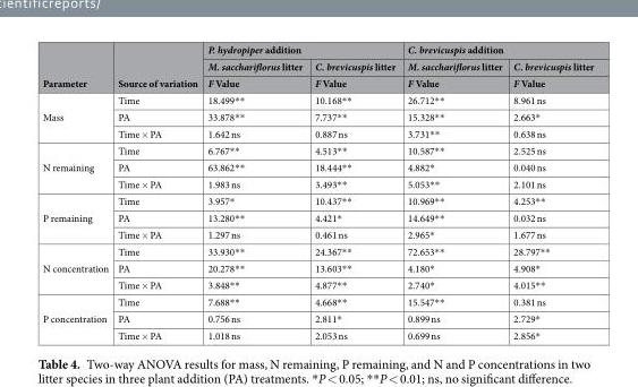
<table><thead><tr><td rowspan="3">Parameter</td><td rowspan="3">Source of variation</td><td colspan="2">P. hydropiper addition</td><td colspan="2">C. brevicuspis addition</td></tr><tr><td rowspan="2">M. sacchariflorus litter F Value</td><td rowspan="2">C. brevicuspis litter F Value</td><td rowspan="2">M. sacchariflorus litter F Value</td><td rowspan="2">C. brevicuspis litter F Value</td></tr><tr></tr></thead><tbody><tr><td rowspan="3">Mass</td><td>Time</td><td>18.499**</td><td>10.168**</td><td>26.712**</td><td>8.961 ns</td></tr><tr><td>PA</td><td>33.878**</td><td>7.737**</td><td>15.328**</td><td>2.663*</td></tr><tr><td>Time × PA</td><td>1.642 ns</td><td>0.887 ns</td><td>3.731**</td><td>0.638 ns</td></tr><tr><td rowspan="3">N remaining</td><td>Time</td><td>6.767**</td><td>4.513**</td><td>10.587**</td><td>2.525 ns</td></tr><tr><td>PA</td><td>63.862**</td><td>18.444**</td><td>4.882*</td><td>0.040 ns</td></tr><tr><td>Time × PA</td><td>1.983 ns</td><td>3.493**</td><td>5.053**</td><td>2.101 ns</td></tr><tr><td rowspan="3">P remaining</td><td>Time</td><td>3.957*</td><td>10.437**</td><td>10.969**</td><td>4.253**</td></tr><tr><td>PA</td><td>13.280**</td><td>4.421*</td><td>14.649**</td><td>0.032 ns</td></tr><tr><td>Time × PA</td><td>1.297 ns</td><td>0.461 ns</td><td>2.965*</td><td>1.677 ns</td></tr><tr><td rowspan="3">N concentration</td><td>Time</td><td>33.930**</td><td>24.367**</td><td>72.653**</td><td>28.797**</td></tr><tr><td>PA</td><td>20.278**</td><td>13.603**</td><td>4.180*</td><td>4.908*</td></tr><tr><td>Time × PA</td><td>3.848**</td><td>4.877**</td><td>2.740*</td><td>4.015**</td></tr><tr><td rowspan="3">P concentration</td><td>Time</td><td>7.688**</td><td>4.668**</td><td>15.547**</td><td>0.381 ns</td></tr><tr><td>PA</td><td>0.756 ns</td><td>2.811*</td><td>0.899 ns</td><td>2.729*</td></tr><tr><td>Time × PA</td><td>1.018 ns</td><td>2.053 ns</td><td>0.699 ns</td><td>2.856*</td></tr></tbody></table>